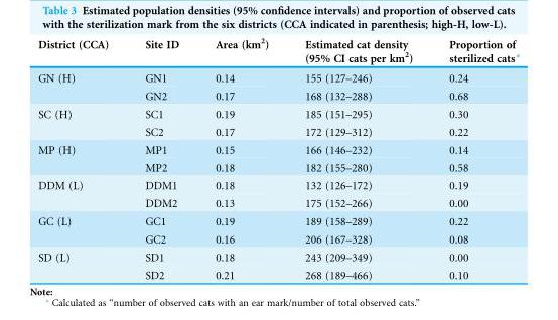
<table><thead><tr><td>District (CCA)</td><td>Site ID</td><td>Area (km<sup>2</sup>)</td><td>Estimated cat density (95% CI cats per km<sup>2</sup>)</td><td>Proportion of sterilized cats*</td></tr></thead><tbody><tr><td rowspan="2">GN (H)</td><td>GN1</td><td>0.14</td><td>155 (127–246)</td><td>0.24</td></tr><tr><td>GN2</td><td>0.17</td><td>168 (132–288)</td><td>0.68</td></tr><tr><td rowspan="2">SC (H)</td><td>SC1</td><td>0.19</td><td>185 (151–295)</td><td>0.30</td></tr><tr><td>SC2</td><td>0.17</td><td>172 (129–312)</td><td>0.22</td></tr><tr><td rowspan="2">MP (H)</td><td>MP1</td><td>0.15</td><td>166 (146–232)</td><td>0.14</td></tr><tr><td>MP2</td><td>0.18</td><td>182 (155–280)</td><td>0.58</td></tr><tr><td rowspan="2">DDM (L)</td><td>DDM1</td><td>0.18</td><td>132 (126–172)</td><td>0.19</td></tr><tr><td>DDM2</td><td>0.13</td><td>175 (152–266)</td><td>0.00</td></tr><tr><td rowspan="2">GC (L)</td><td>GC1</td><td>0.19</td><td>189 (158–289)</td><td>0.22</td></tr><tr><td>GC2</td><td>0.16</td><td>206 (167–328)</td><td>0.08</td></tr><tr><td rowspan="2">SD (L)</td><td>SD1</td><td>0.18</td><td>243 (209–349)</td><td>0.00</td></tr><tr><td>SD2</td><td>0.21</td><td>268 (189–466)</td><td>0.10</td></tr></tbody></table>